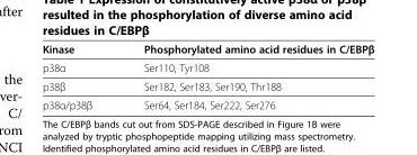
<table><thead><tr><td>Kinase</td><td>Phosphorylated amino acid residues in C/EBPβ</td></tr></thead><tbody><tr><td>p38α</td><td>Ser110, Tyr108</td></tr><tr><td>p38β</td><td>Ser182, Ser183, Ser190, Thr188</td></tr><tr><td>p38α/p38β</td><td>Ser64, Ser184, Ser222, Ser276</td></tr></tbody></table>